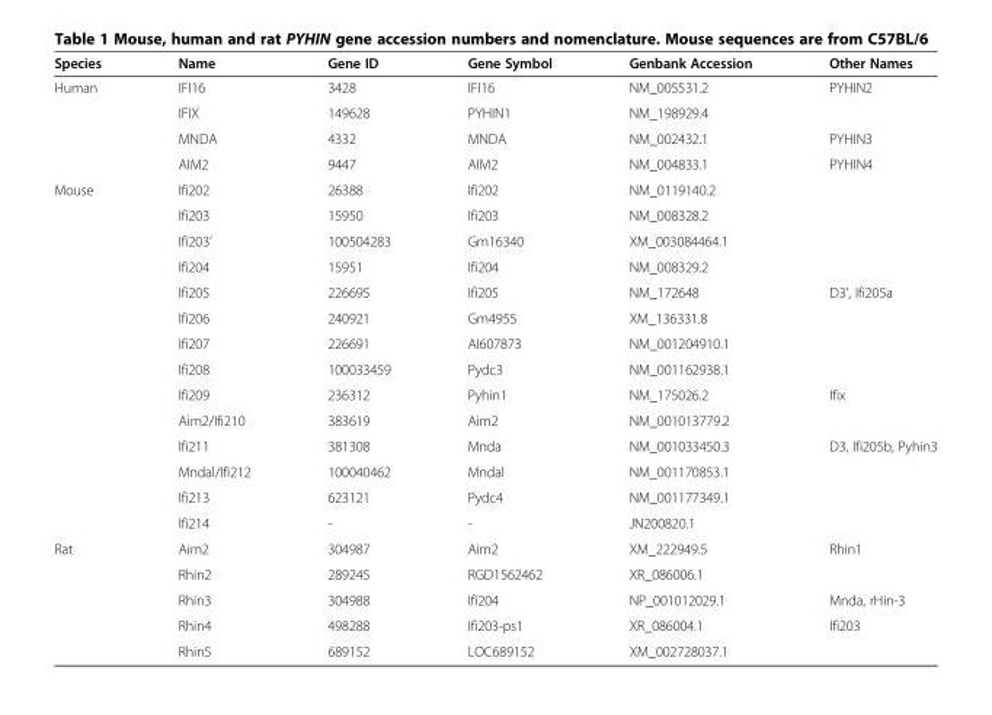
<table><thead><tr><td>Species</td><td>Name</td><td>Gene ID</td><td>Gene Symbol</td><td>Genbank Accession</td><td>Other Names</td></tr></thead><tbody><tr><td rowspan="4">Human</td><td>IFI16</td><td>3428</td><td>IFI16</td><td>NM_005531.2</td><td>PYHIN2</td></tr><tr><td>IFIX</td><td>149628</td><td>PYHIN1</td><td>NM_198929.4</td><td></td></tr><tr><td>MNDA</td><td>4332</td><td>MNDA</td><td>NM_002432.1</td><td>PYHIN3</td></tr><tr><td>AIM2</td><td>9447</td><td>AIM2</td><td>NM_004833.1</td><td>PYHIN4</td></tr><tr><td rowspan="14">Mouse</td><td>Ifi202</td><td>26388</td><td>Ifi202</td><td>NM_0119140.2</td><td></td></tr><tr><td>Ifi203</td><td>15950</td><td>Ifi203</td><td>NM_008328.2</td><td></td></tr><tr><td>Ifi203’</td><td>100504283</td><td>Gm16340</td><td>XM_003084464.1</td><td></td></tr><tr><td>Ifi204</td><td>15951</td><td>Ifi204</td><td>NM_008329.2</td><td></td></tr><tr><td>Ifi205</td><td>226695</td><td>Ifi205</td><td>NM_172648</td><td>D3&#x27;, Ifi205a</td></tr><tr><td>Ifi206</td><td>240921</td><td>Gm4955</td><td>XM_136331.8</td><td></td></tr><tr><td>Ifi207</td><td>226691</td><td>AI607873</td><td>NM_001204910.1</td><td></td></tr><tr><td>Ifi208</td><td>100033459</td><td>Pydc3</td><td>NM_001162938.1</td><td></td></tr><tr><td>Ifi209</td><td>236312</td><td>Pyhin1</td><td>NM_175026.2</td><td>Ifix</td></tr><tr><td>Aim2/Ifi210</td><td>383619</td><td>Aim2</td><td>NM_001013779.2</td><td></td></tr><tr><td>Ifi211</td><td>381308</td><td>Mnda</td><td>NM_001033450.3</td><td>D3, Ifi205b, Pyhin3</td></tr><tr><td>Mndal/Ifi212</td><td>100040462</td><td>Mndal</td><td>NM_001170853.1</td><td></td></tr><tr><td>Ifi213</td><td>623121</td><td>Pydc4</td><td>NM_001177349.1</td><td></td></tr><tr><td>Ifi214</td><td>-</td><td>-</td><td>JN200820.1</td><td></td></tr><tr><td rowspan="5">Rat</td><td>Aim2</td><td>304987</td><td>Aim2</td><td>XM_222949.5</td><td>Rhin1</td></tr><tr><td>Rhin2</td><td>289245</td><td>RGD1562462</td><td>XR_086006.1</td><td></td></tr><tr><td>Rhin3</td><td>304988</td><td>Ifi204</td><td>NP_001012029.1</td><td>Mnda, rHin-3</td></tr><tr><td>Rhin4</td><td>498288</td><td>Ifi203-ps1</td><td>XR_086004.1</td><td>Ifi203</td></tr><tr><td>Rhin5</td><td>689152</td><td>LOC689152</td><td>XM_002728037.1</td><td></td></tr></tbody></table>